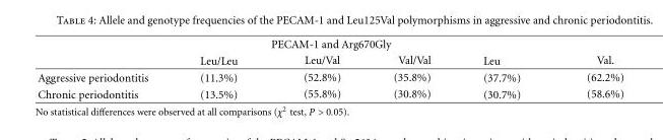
<table><thead><tr><td colspan="6">PECAM-1 and Arg670Gly</td></tr><tr><td></td><td>Leu/Leu</td><td>Leu/Val</td><td>Val/Val</td><td>Leu</td><td>Val.</td></tr></thead><tbody><tr><td>Aggressive periodontitis</td><td>(11.3%)</td><td>(52.8%)</td><td>(35.8%)</td><td>(37.7%)</td><td>(62.2%)</td></tr><tr><td>Chronic periodontitis</td><td>(13.5%)</td><td>(55.8%)</td><td>(30.8%)</td><td>(30.7%)</td><td>(58.6%)</td></tr></tbody></table>